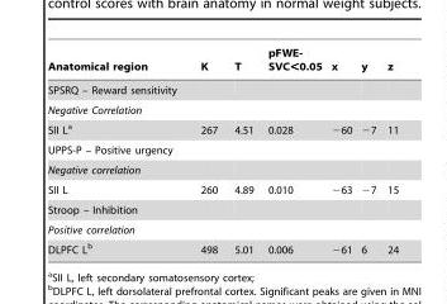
<table><thead><tr><td>Anatomical region</td><td>K</td><td>T</td><td>pFWE- SVC&lt;0.05</td><td>x</td><td>y</td><td>z</td></tr></thead><tbody><tr><td colspan="7">SPSRQ – Reward sensitivity</td></tr><tr><td colspan="7">Negative Correlation</td></tr><tr><td>SII L<sup>a</sup></td><td>267</td><td>4.51</td><td>0.028</td><td>−60</td><td>−7</td><td>11</td></tr><tr><td colspan="7">UPPS-P – Positive urgency</td></tr><tr><td colspan="7">Negative correlation</td></tr><tr><td>SII L</td><td>260</td><td>4.89</td><td>0.010</td><td>−63</td><td>−7</td><td>15</td></tr><tr><td colspan="7">Stroop – Inhibition</td></tr><tr><td colspan="7">Positive correlation</td></tr><tr><td>DLPFC L<sup>b</sup></td><td>498</td><td>5.01</td><td>0.006</td><td>−61</td><td>6</td><td>24</td></tr></tbody></table>